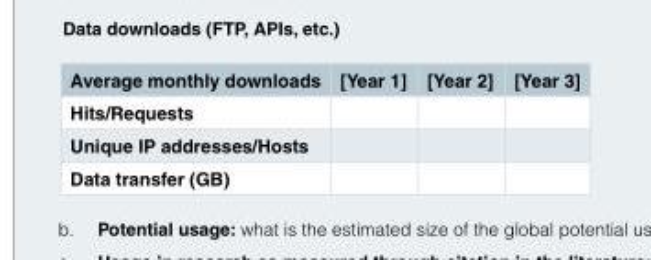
<table><thead><tr><td>Average monthly downloads</td><td>[Year 1]</td><td>[Year 2]</td><td>[Year 3]</td></tr></thead><tbody><tr><td colspan="4">Hits/Requests</td></tr><tr><td colspan="4">Unique IP addresses/Hosts</td></tr><tr><td>Data transfer (GB)</td><td></td><td></td><td></td></tr></tbody></table>